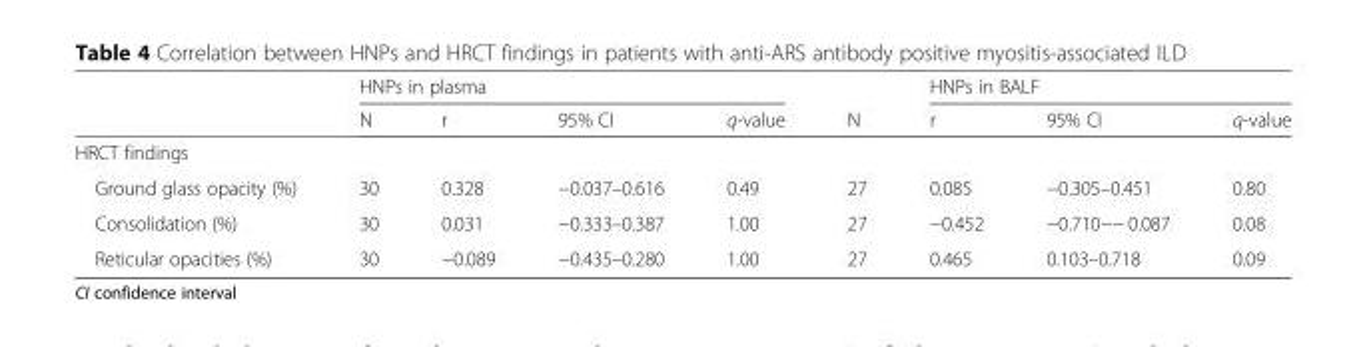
<table><thead><tr><td rowspan="2"></td><td colspan="4">HNPs in plasma</td><td rowspan="2">N</td><td colspan="3">HNPs in BALF</td></tr><tr><td>N</td><td>r</td><td>95% CI</td><td>q-value</td><td>r</td><td>95% CI</td><td>q-value</td></tr></thead><tbody><tr><td colspan="9">HRCT findings</td></tr><tr><td>Ground glass opacity (%)</td><td>30</td><td>0.328</td><td>−0.037–0.616</td><td>0.49</td><td>27</td><td>0.085</td><td>−0.305–0.451</td><td>0.80</td></tr><tr><td>Consolidation (%)</td><td>30</td><td>0.031</td><td>−0.333–0.387</td><td>1.00</td><td>27</td><td>−0.452</td><td>−0.710−− 0.087</td><td>0.08</td></tr><tr><td>Reticular opacities (%)</td><td>30</td><td>−0.089</td><td>−0.435–0.280</td><td>1.00</td><td>27</td><td>0.465</td><td>0.103–0.718</td><td>0.09</td></tr></tbody></table>